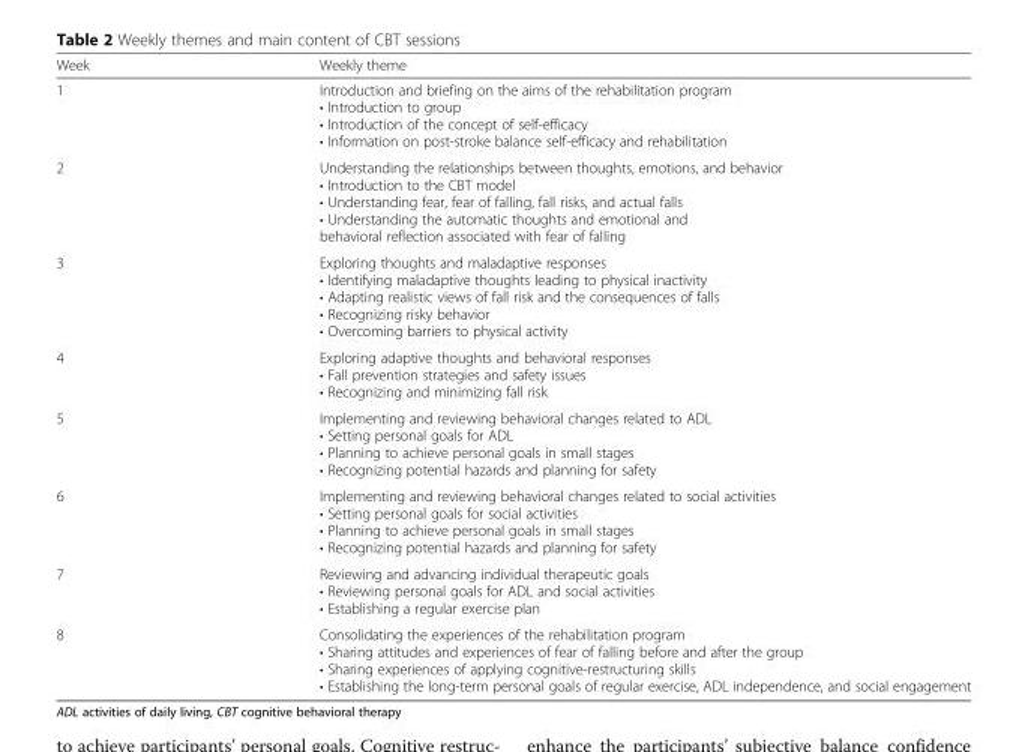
<table><thead><tr><td>Week</td><td>Weekly theme</td></tr></thead><tbody><tr><td>1</td><td>Introduction and briefing on the aims of the rehabilitation program • Introduction to group • Introduction of the concept of self-efficacy • Information on post-stroke balance self-efficacy and rehabilitation</td></tr><tr><td>2</td><td>Understanding the relationships between thoughts, emotions, and behavior • Introduction to the CBT model • Understanding fear, fear of falling, fall risks, and actual falls • Understanding the automatic thoughts and emotional and behavioral reflection associated with fear of falling</td></tr><tr><td>3</td><td>Exploring thoughts and maladaptive responses • Identifying maladaptive thoughts leading to physical inactivity • Adapting realistic views of fall risk and the consequences of falls • Recognizing risky behavior • Overcoming barriers to physical activity</td></tr><tr><td>4</td><td>Exploring adaptive thoughts and behavioral responses • Fall prevention strategies and safety issues • Recognizing and minimizing fall risk</td></tr><tr><td>5</td><td>Implementing and reviewing behavioral changes related to ADL • Setting personal goals for ADL • Planning to achieve personal goals in small stages • Recognizing potential hazards and planning for safety</td></tr><tr><td>6</td><td>Implementing and reviewing behavioral changes related to social activities • Setting personal goals for social activities • Planning to achieve personal goals in small stages • Recognizing potential hazards and planning for safety</td></tr><tr><td>7</td><td>Reviewing and advancing individual therapeutic goals • Reviewing personal goals for ADL and social activities • Establishing a regular exercise plan</td></tr><tr><td>8</td><td>Consolidating the experiences of the rehabilitation program • Sharing attitudes and experiences of fear of falling before and after the group • Sharing experiences of applying cognitive-restructuring skills • Establishing the long-term personal goals of regular exercise, ADL independence, and social engagement</td></tr></tbody></table>